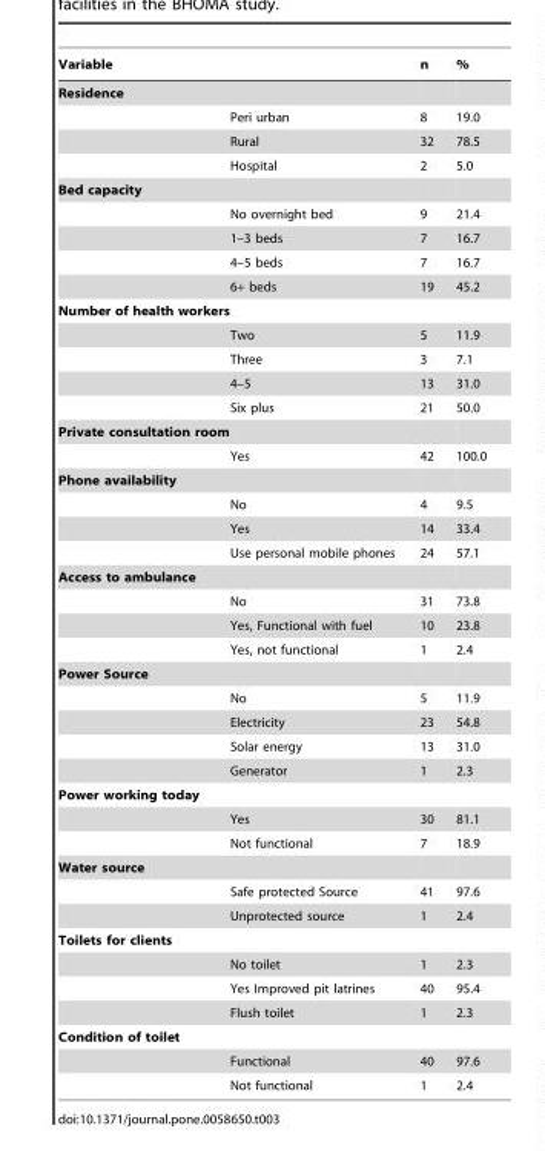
<table><thead><tr><td>Variable</td><td></td><td>n</td><td>%</td></tr></thead><tbody><tr><td colspan="4">Residence</td></tr><tr><td></td><td>Peri urban</td><td>8</td><td>19.0</td></tr><tr><td></td><td>Rural</td><td>32</td><td>78.5</td></tr><tr><td></td><td>Hospital</td><td>2</td><td>5.0</td></tr><tr><td colspan="4">Bed capacity</td></tr><tr><td></td><td>No overnight bed</td><td>9</td><td>21.4</td></tr><tr><td></td><td>1–3 beds</td><td>7</td><td>16.7</td></tr><tr><td></td><td>4–5 beds</td><td>7</td><td>16.7</td></tr><tr><td></td><td>6+ beds</td><td>19</td><td>45.2</td></tr><tr><td colspan="4">Number of health workers</td></tr><tr><td></td><td>Two</td><td>5</td><td>11.9</td></tr><tr><td></td><td>Three</td><td>3</td><td>7.1</td></tr><tr><td></td><td>4–5</td><td>13</td><td>31.0</td></tr><tr><td></td><td>Six plus</td><td>21</td><td>50.0</td></tr><tr><td colspan="4">Private consultation room</td></tr><tr><td></td><td>Yes</td><td>42</td><td>100.0</td></tr><tr><td colspan="4">Phone availability</td></tr><tr><td></td><td>No</td><td>4</td><td>9.5</td></tr><tr><td></td><td>Yes</td><td>14</td><td>33.4</td></tr><tr><td></td><td>Use personal mobile phones</td><td>24</td><td>57.1</td></tr><tr><td colspan="4">Access to ambulance</td></tr><tr><td></td><td>No</td><td>31</td><td>73.8</td></tr><tr><td></td><td>Yes, Functional with fuel</td><td>10</td><td>23.8</td></tr><tr><td></td><td>Yes, not functional</td><td>1</td><td>2.4</td></tr><tr><td colspan="4">Power Source</td></tr><tr><td></td><td>No</td><td>5</td><td>11.9</td></tr><tr><td></td><td>Electricity</td><td>23</td><td>54.8</td></tr><tr><td></td><td>Solar energy</td><td>13</td><td>31.0</td></tr><tr><td></td><td>Generator</td><td>1</td><td>2.3</td></tr><tr><td colspan="4">Power working today</td></tr><tr><td></td><td>Yes</td><td>30</td><td>81.1</td></tr><tr><td></td><td>Not functional</td><td>7</td><td>18.9</td></tr><tr><td colspan="4">Water source</td></tr><tr><td></td><td>Safe protected Source</td><td>41</td><td>97.6</td></tr><tr><td></td><td>Unprotected source</td><td>1</td><td>2.4</td></tr><tr><td colspan="4">Toilets for clients</td></tr><tr><td></td><td>No toilet</td><td>1</td><td>2.3</td></tr><tr><td></td><td>Yes Improved pit latrines</td><td>40</td><td>95.4</td></tr><tr><td></td><td>Flush toilet</td><td>1</td><td>2.3</td></tr><tr><td colspan="4">Condition of toilet</td></tr><tr><td></td><td>Functional</td><td>40</td><td>97.6</td></tr><tr><td></td><td>Not functional</td><td>1</td><td>2.4</td></tr></tbody></table>